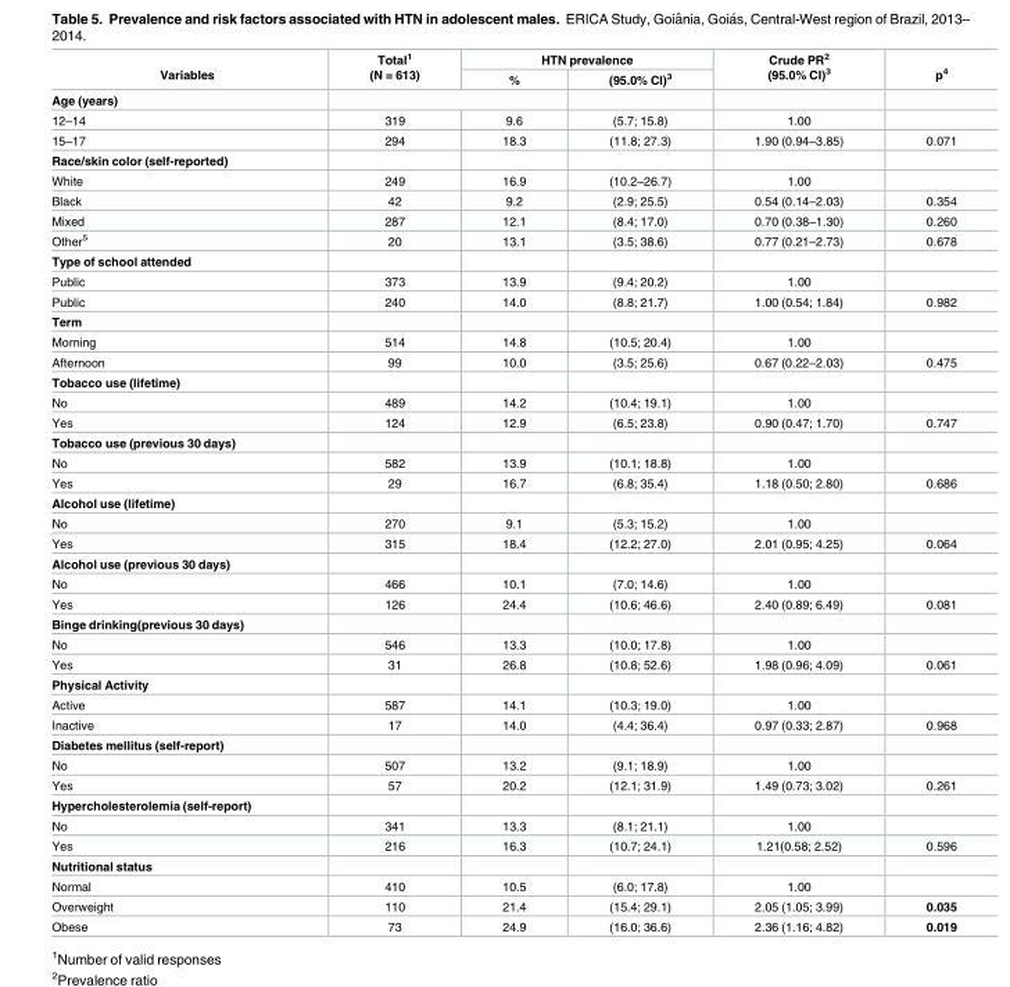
<table><thead><tr><td rowspan="2">Variables</td><td rowspan="2">Total<sup>1</sup> (N = 613)</td><td colspan="2">HTN prevalence</td><td rowspan="2">Crude PR<sup>2</sup> (95.0% CI)<sup>3</sup></td><td rowspan="2">p<sup>4</sup></td></tr><tr><td>%</td><td>(95.0% CI)<sup>3</sup></td></tr></thead><tbody><tr><td colspan="6">Age (years)</td></tr><tr><td>12–14</td><td>319</td><td>9.6</td><td>(5.7; 15.8)</td><td>1.00</td><td></td></tr><tr><td>15–17</td><td>294</td><td>18.3</td><td>(11.8; 27.3)</td><td>1.90 (0.94–3.85)</td><td>0.071</td></tr><tr><td colspan="6">Race/skin color (self-reported)</td></tr><tr><td>White</td><td>249</td><td>16.9</td><td>(10.2–26.7)</td><td>1.00</td><td></td></tr><tr><td>Black</td><td>42</td><td>9.2</td><td>(2.9; 25.5)</td><td>0.54 (0.14–2.03)</td><td>0.354</td></tr><tr><td>Mixed</td><td>287</td><td>12.1</td><td>(8.4; 17.0)</td><td>0.70 (0.38–1.30)</td><td>0.260</td></tr><tr><td>Other<sup>5</sup></td><td>20</td><td>13.1</td><td>(3.5; 38.6)</td><td>0.77 (0.21–2.73)</td><td>0.678</td></tr><tr><td colspan="6">Type of school attended</td></tr><tr><td>Public</td><td>373</td><td>13.9</td><td>(9.4; 20.2)</td><td>1.00</td><td></td></tr><tr><td>Public</td><td>240</td><td>14.0</td><td>(8.8; 21.7)</td><td>1.00 (0.54; 1.84)</td><td>0.982</td></tr><tr><td colspan="6">Term</td></tr><tr><td>Morning</td><td>514</td><td>14.8</td><td>(10.5; 20.4)</td><td>1.00</td><td></td></tr><tr><td>Afternoon</td><td>99</td><td>10.0</td><td>(3.5; 25.6)</td><td>0.67 (0.22–2.03)</td><td>0.475</td></tr><tr><td colspan="6">Tobacco use (lifetime)</td></tr><tr><td>No</td><td>489</td><td>14.2</td><td>(10.4; 19.1)</td><td>1.00</td><td></td></tr><tr><td>Yes</td><td>124</td><td>12.9</td><td>(6.5; 23.8)</td><td>0.90 (0.47; 1.70)</td><td>0.747</td></tr><tr><td colspan="6">Tobacco use (previous 30 days)</td></tr><tr><td>No</td><td>582</td><td>13.9</td><td>(10.1; 18.8)</td><td>1.00</td><td></td></tr><tr><td>Yes</td><td>29</td><td>16.7</td><td>(6.8; 35.4)</td><td>1.18 (0.50; 2.80)</td><td>0.686</td></tr><tr><td colspan="6">Alcohol use (lifetime)</td></tr><tr><td>No</td><td>270</td><td>9.1</td><td>(5.3; 15.2)</td><td>1.00</td><td></td></tr><tr><td>Yes</td><td>315</td><td>18.4</td><td>(12.2; 27.0)</td><td>2.01 (0.95; 4.25)</td><td>0.064</td></tr><tr><td colspan="6">Alcohol use (previous 30 days)</td></tr><tr><td>No</td><td>466</td><td>10.1</td><td>(7.0; 14.6)</td><td>1.00</td><td></td></tr><tr><td>Yes</td><td>126</td><td>24.4</td><td>(10.6; 46.6)</td><td>2.40 (0.89; 6.49)</td><td>0.081</td></tr><tr><td colspan="6">Binge drinking(previous 30 days)</td></tr><tr><td>No</td><td>546</td><td>13.3</td><td>(10.0; 17.8)</td><td>1.00</td><td></td></tr><tr><td>Yes</td><td>31</td><td>26.8</td><td>(10.8; 52.6)</td><td>1.98 (0.96; 4.09)</td><td>0.061</td></tr><tr><td colspan="6">Physical Activity</td></tr><tr><td>Active</td><td>587</td><td>14.1</td><td>(10.3; 19.0)</td><td>1.00</td><td></td></tr><tr><td>Inactive</td><td>17</td><td>14.0</td><td>(4.4; 36.4)</td><td>0.97 (0.33; 2.87)</td><td>0.968</td></tr><tr><td colspan="6">Diabetes mellitus (self-report)</td></tr><tr><td>No</td><td>507</td><td>13.2</td><td>(9.1; 18.9)</td><td>1.00</td><td></td></tr><tr><td>Yes</td><td>57</td><td>20.2</td><td>(12.1; 31.9)</td><td>1.49 (0.73; 3.02)</td><td>0.261</td></tr><tr><td colspan="6">Hypercholesterolemia (self-report)</td></tr><tr><td>No</td><td>341</td><td>13.3</td><td>(8.1; 21.1)</td><td>1.00</td><td></td></tr><tr><td>Yes</td><td>216</td><td>16.3</td><td>(10.7; 24.1)</td><td>1.21(0.58; 2.52)</td><td>0.596</td></tr><tr><td colspan="6">Nutritional status</td></tr><tr><td>Normal</td><td>410</td><td>10.5</td><td>(6.0; 17.8)</td><td>1.00</td><td></td></tr><tr><td>Overweight</td><td>110</td><td>21.4</td><td>(15.4; 29.1)</td><td>2.05 (1.05; 3.99)</td><td>0.035</td></tr><tr><td>Obese</td><td>73</td><td>24.9</td><td>(16.0; 36.6)</td><td>2.36 (1.16; 4.82)</td><td>0.019</td></tr></tbody></table>